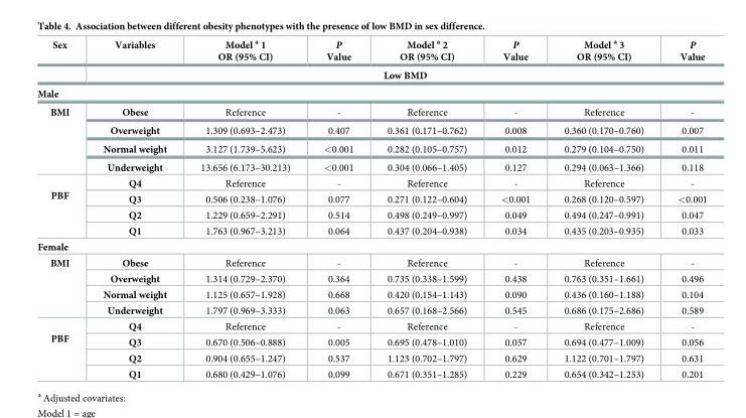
<table><thead><tr><td rowspan="2">Sex</td><td>Variables</td><td>Model <sup>a</sup> 1 OR (95% CI)</td><td>P Value</td><td>Model <sup>a</sup> 2 OR (95% CI)</td><td>P Value</td><td>Model <sup>a</sup> 3 OR (95% CI)</td><td>P Value</td></tr><tr><td colspan="7">Low BMD</td></tr></thead><tbody><tr><td colspan="8">Male</td></tr><tr><td rowspan="4">BMI</td><td>Obese</td><td>Reference</td><td>-</td><td>Reference</td><td>-</td><td>Reference</td><td>-</td></tr><tr><td>Overweight</td><td>1.309 (0.693–2.473)</td><td>0.407</td><td>0.361 (0.171–0.762)</td><td>0.008</td><td>0.360 (0.170–0.760)</td><td>0.007</td></tr><tr><td>Normal weight</td><td>3.127 (1.739–5.623)</td><td>&lt;0.001</td><td>0.282 (0.105–0.757)</td><td>0.012</td><td>0.279 (0.104–0.750)</td><td>0.011</td></tr><tr><td>Underweight</td><td>13.656 (6.173–30.213)</td><td>&lt;0.001</td><td>0.304 (0.066–1.405)</td><td>0.127</td><td>0.294 (0.063–1.366)</td><td>0.118</td></tr><tr><td rowspan="4">PBF</td><td>Q4</td><td>Reference</td><td>-</td><td>Reference</td><td>-</td><td>Reference</td><td>-</td></tr><tr><td>Q3</td><td>0.506 (0.238–1.076)</td><td>0.077</td><td>0.271 (0.122–0.604)</td><td>&lt;0.001</td><td>0.268 (0.120–0.597)</td><td>&lt;0.001</td></tr><tr><td>Q2</td><td>1.229 (0.659–2.291)</td><td>0.514</td><td>0.498 (0.249–0.997)</td><td>0.049</td><td>0.494 (0.247–0.991)</td><td>0.047</td></tr><tr><td>Q1</td><td>1.763 (0.967–3.213)</td><td>0.064</td><td>0.437 (0.204–0.938)</td><td>0.034</td><td>0.435 (0.203–0.935)</td><td>0.033</td></tr><tr><td colspan="8">Female</td></tr><tr><td rowspan="4">BMI</td><td>Obese</td><td>Reference</td><td>-</td><td>Reference</td><td>-</td><td>Reference</td><td>-</td></tr><tr><td>Overweight</td><td>1.314 (0.729–2.370)</td><td>0.364</td><td>0.735 (0.338–1.599)</td><td>0.438</td><td>0.763 (0.351–1.661)</td><td>0.496</td></tr><tr><td>Normal weight</td><td>1.125 (0.657–1.928)</td><td>0.668</td><td>0.420 (0.154–1.143)</td><td>0.090</td><td>0.436 (0.160–1.188)</td><td>0.104</td></tr><tr><td>Underweight</td><td>1.797 (0.969–3.333)</td><td>0.063</td><td>0.657 (0.168–2.566)</td><td>0.545</td><td>0.686 (0.175–2.686)</td><td>0.589</td></tr><tr><td rowspan="4">PBF</td><td>Q4</td><td>Reference</td><td>-</td><td>Reference</td><td>-</td><td>Reference</td><td>-</td></tr><tr><td>Q3</td><td>0.670 (0.506–0.888)</td><td>0.005</td><td>0.695 (0.478–1.010)</td><td>0.057</td><td>0.694 (0.477–1.009)</td><td>0.056</td></tr><tr><td>Q2</td><td>0.904 (0.655–1.247)</td><td>0.537</td><td>1.123 (0.702–1.797)</td><td>0.629</td><td>1.122 (0.701–1.797)</td><td>0.631</td></tr><tr><td>Q1</td><td>0.680 (0.429–1.076)</td><td>0.099</td><td>0.671 (0.351–1.285)</td><td>0.229</td><td>0.654 (0.342–1.253)</td><td>0.201</td></tr></tbody></table>